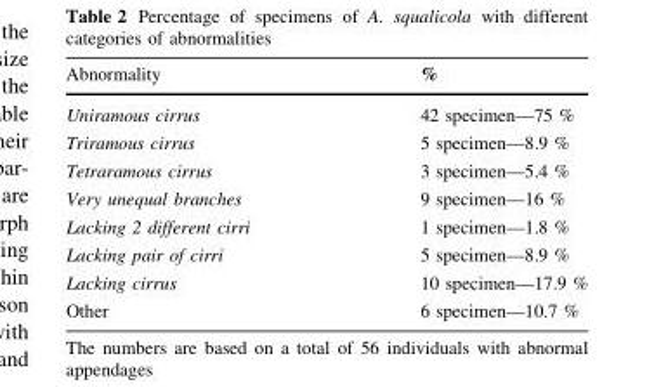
<table><thead><tr><td>Abnormality</td><td>%</td></tr></thead><tbody><tr><td>Uniramous cirrus</td><td>42 specimen—75 %</td></tr><tr><td>Triramous cirrus</td><td>5 specimen—8.9 %</td></tr><tr><td>Tetraramous cirrus</td><td>3 specimen—5.4 %</td></tr><tr><td>Very unequal branches</td><td>9 specimen—16 %</td></tr><tr><td>Lacking 2 different cirri</td><td>1 specimen—1.8 %</td></tr><tr><td>Lacking pair of cirri</td><td>5 specimen—8.9 %</td></tr><tr><td>Lacking cirrus</td><td>10 specimen—17.9 %</td></tr><tr><td>Other</td><td>6 specimen—10.7 %</td></tr></tbody></table>